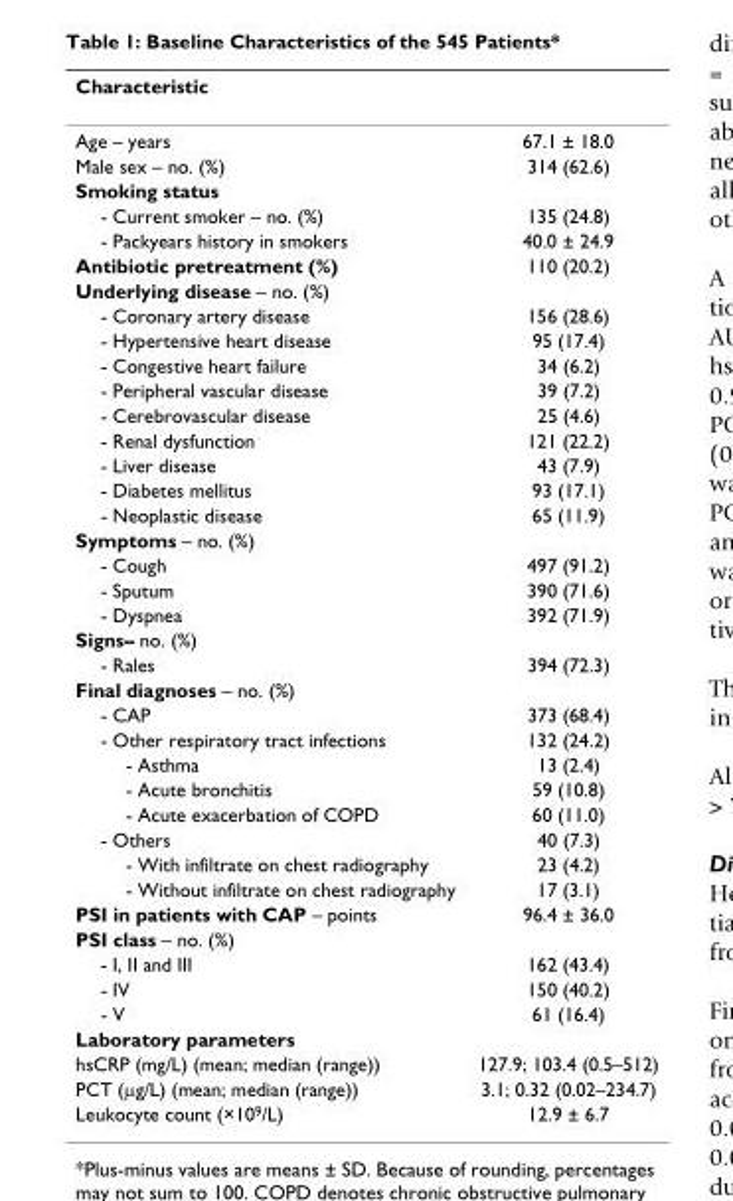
<table><thead><tr><td>Characteristic</td><td></td></tr></thead><tbody><tr><td>Age – years</td><td>67.1 ± 18.0</td></tr><tr><td>Male sex – no. (%)</td><td>314 (62.6)</td></tr><tr><td colspan="2">Smoking status</td></tr><tr><td>- Current smoker – no. (%)</td><td>135 (24.8)</td></tr><tr><td>- Packyears history in smokers</td><td>40.0 ± 24.9</td></tr><tr><td>Antibiotic pretreatment (%)</td><td>110 (20.2)</td></tr><tr><td colspan="2">Underlying disease – no. (%)</td></tr><tr><td>- Coronary artery disease</td><td>156 (28.6)</td></tr><tr><td>- Hypertensive heart disease</td><td>95 (17.4)</td></tr><tr><td>- Congestive heart failure</td><td>34 (6.2)</td></tr><tr><td>- Peripheral vascular disease</td><td>39 (7.2)</td></tr><tr><td>- Cerebrovascular disease</td><td>25 (4.6)</td></tr><tr><td>- Renal dysfunction</td><td>121 (22.2)</td></tr><tr><td>- Liver disease</td><td>43 (7.9)</td></tr><tr><td>- Diabetes mellitus</td><td>93 (17.1)</td></tr><tr><td>- Neoplastic disease</td><td>65 (11.9)</td></tr><tr><td colspan="2">Symptoms – no. (%)</td></tr><tr><td>- Cough</td><td>497 (91.2)</td></tr><tr><td>- Sputum</td><td>390 (71.6)</td></tr><tr><td>- Dyspnea</td><td>392 (71.9)</td></tr><tr><td colspan="2">Signs– no. (%)</td></tr><tr><td>- Rales</td><td>394 (72.3)</td></tr><tr><td colspan="2">Final diagnoses – no. (%)</td></tr><tr><td>- CAP</td><td>373 (68.4)</td></tr><tr><td>- Other respiratory tract infections</td><td>132 (24.2)</td></tr><tr><td>- Asthma</td><td>13 (2.4)</td></tr><tr><td>- Acute bronchitis</td><td>59 (10.8)</td></tr><tr><td>- Acute exacerbation of COPD</td><td>60 (11.0)</td></tr><tr><td>- Others</td><td>40 (7.3)</td></tr><tr><td>- With infiltrate on chest radiography</td><td>23 (4.2)</td></tr><tr><td>- Without infiltrate on chest radiography</td><td>17 (3.1)</td></tr><tr><td>PSI in patients with CAP – points</td><td>96.4 ± 36.0</td></tr><tr><td colspan="2">PSI class – no. (%)</td></tr><tr><td>- I, II and III</td><td>162 (43.4)</td></tr><tr><td>- IV</td><td>150 (40.2)</td></tr><tr><td>- V</td><td>61 (16.4)</td></tr><tr><td colspan="2">Laboratory parameters</td></tr><tr><td>hsCRP (mg/L) (mean; median (range))</td><td>127.9; 103.4 (0.5–512)</td></tr><tr><td>PCT (µg/L) (mean; median (range))</td><td>3.1; 0.32 (0.02–234.7)</td></tr><tr><td>Leukocyte count (×10<sup>9</sup>/L)</td><td>12.9 ± 6.7</td></tr></tbody></table>